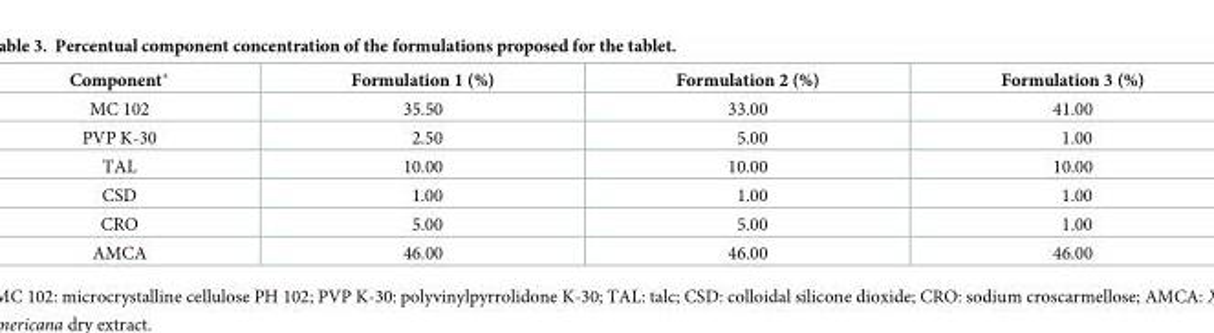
<table><thead><tr><td>Component*</td><td>Formulation 1 (%)</td><td>Formulation 2 (%)</td><td>Formulation 3 (%)</td></tr></thead><tbody><tr><td>MC 102</td><td>35.50</td><td>33.00</td><td>41.00</td></tr><tr><td>PVP K-30</td><td>2.50</td><td>5.00</td><td>1.00</td></tr><tr><td>TAL</td><td>10.00</td><td>10.00</td><td>10.00</td></tr><tr><td>CSD</td><td>1.00</td><td>1.00</td><td>1.00</td></tr><tr><td>CRO</td><td>5.00</td><td>5.00</td><td>1.00</td></tr><tr><td>AMCA</td><td>46.00</td><td>46.00</td><td>46.00</td></tr></tbody></table>